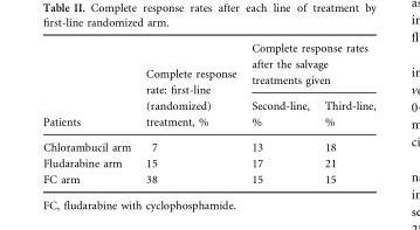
<table><thead><tr><td rowspan="2">Patients</td><td rowspan="2">Complete response rate: first-line (randomized) treatment, %</td><td colspan="2">Complete response rates after the salvage treatments given</td></tr><tr><td>Second-line, %</td><td>Third-line, %</td></tr></thead><tbody><tr><td>Chlorambucil arm</td><td>7</td><td>13</td><td>18</td></tr><tr><td>Fludarabine arm</td><td>15</td><td>17</td><td>21</td></tr><tr><td>FC arm</td><td>38</td><td>15</td><td>15</td></tr></tbody></table>